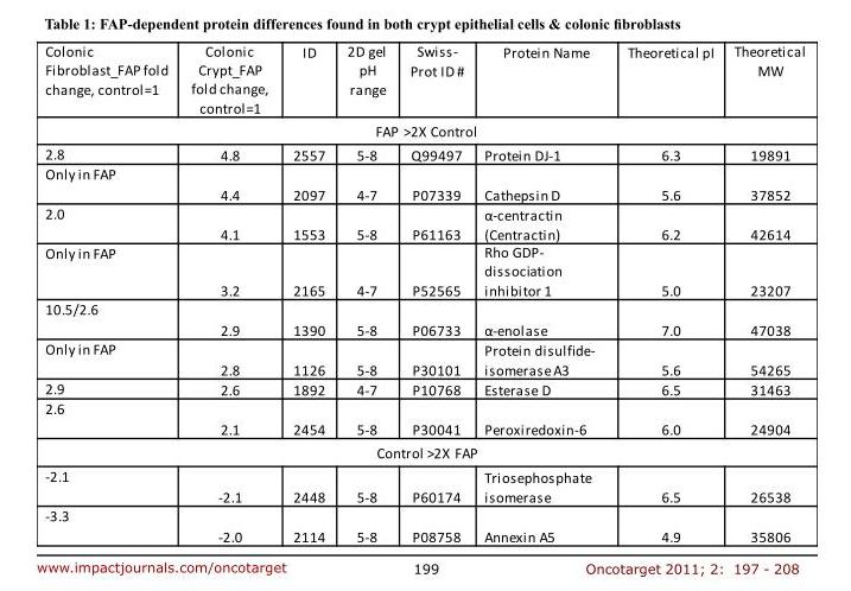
<table><thead><tr><td>Colonic Fibroblast_FAP fold change, control=1</td><td>Colonic Crypt_FAP fold change, control=1</td><td>ID</td><td>2D gel pH range</td><td>Swiss- Prot ID #</td><td>Protein Name</td><td>Theoretical pI</td><td>Theoretical MW</td></tr></thead><tbody><tr><td colspan="8">FAP &gt;2X Control</td></tr><tr><td>2.8</td><td>4.8</td><td>2557</td><td>5-8</td><td>Q99497</td><td>Protein DJ-1</td><td>6.3</td><td>19891</td></tr><tr><td>Only in FAP</td><td>4.4</td><td>2097</td><td>4-7</td><td>P07339</td><td>Cathepsin D</td><td>5.6</td><td>37852</td></tr><tr><td>2.0</td><td>4.1</td><td>1553</td><td>5-8</td><td>P61163</td><td>α-centractin (Centractin)</td><td>6.2</td><td>42614</td></tr><tr><td>Only in FAP</td><td>3.2</td><td>2165</td><td>4-7</td><td>P52565</td><td>Rho GDP- dissociation inhibitor 1</td><td>5.0</td><td>23207</td></tr><tr><td>10.5/2.6</td><td>2.9</td><td>1390</td><td>5-8</td><td>P06733</td><td>α-enolase</td><td>7.0</td><td>47038</td></tr><tr><td>Only in FAP</td><td>2.8</td><td>1126</td><td>5-8</td><td>P30101</td><td>Protein disulfide- isomerase A3</td><td>5.6</td><td>54265</td></tr><tr><td>2.9</td><td>2.6</td><td>1892</td><td>4-7</td><td>P10768</td><td>Esterase D</td><td>6.5</td><td>31463</td></tr><tr><td>2.6</td><td>2.1</td><td>2454</td><td>5-8</td><td>P30041</td><td>Peroxiredoxin-6</td><td>6.0</td><td>24904</td></tr><tr><td colspan="8">Control &gt;2X FAP</td></tr><tr><td>-2.1</td><td>-2.1</td><td>2448</td><td>5-8</td><td>P60174</td><td>Triosephosphate isomerase</td><td>6.5</td><td>26538</td></tr><tr><td>-3.3</td><td>-2.0</td><td>2114</td><td>5-8</td><td>P08758</td><td>Annexin A5</td><td>4.9</td><td>35806</td></tr></tbody></table>